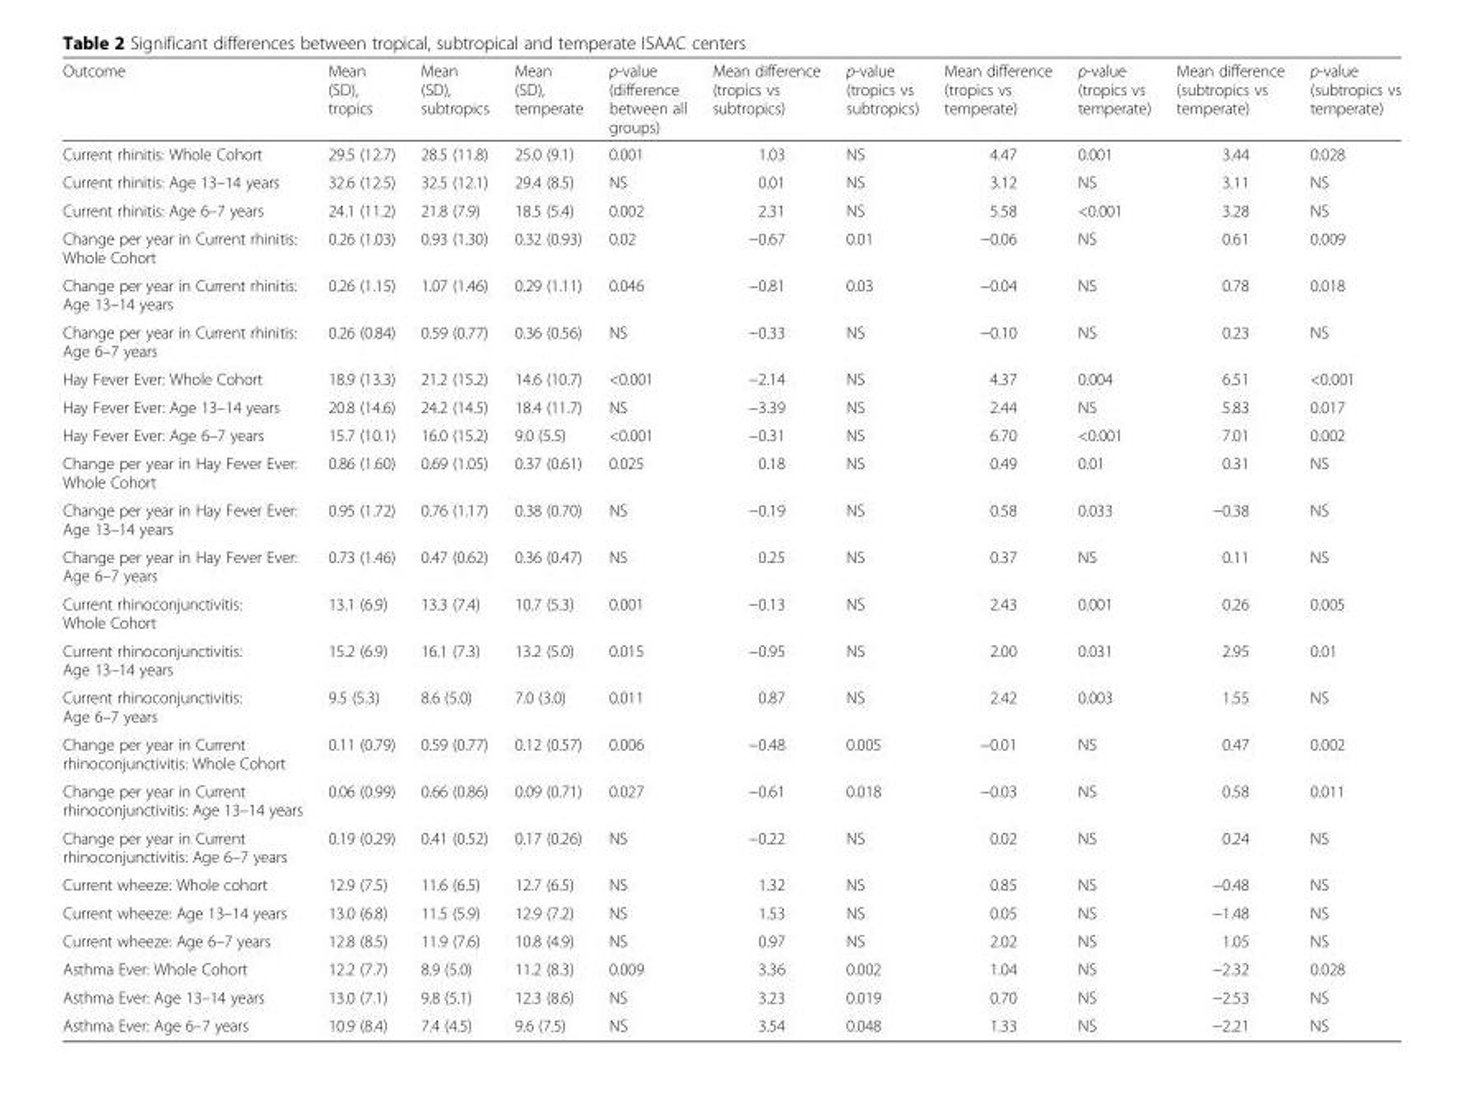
<table><thead><tr><td>Outcome</td><td>Mean (SD), tropics</td><td>Mean (SD), subtropics</td><td>Mean (SD), temperate</td><td>p-value (difference between all groups)</td><td>Mean difference (tropics vs subtropics)</td><td>p-value (tropics vs subtropics)</td><td>Mean difference (tropics vs temperate)</td><td>p-value (tropics vs temperate)</td><td>Mean difference (subtropics vs temperate)</td><td>p-value (subtropics vs temperate)</td></tr></thead><tbody><tr><td>Current rhinitis: Whole Cohort</td><td>29.5 (12.7)</td><td>28.5 (11.8)</td><td>25.0 (9.1)</td><td>0.001</td><td>1.03</td><td>NS</td><td>4.47</td><td>0.001</td><td>3.44</td><td>0.028</td></tr><tr><td>Current rhinitis: Age 13–14 years</td><td>32.6 (12.5)</td><td>32.5 (12.1)</td><td>29.4 (8.5)</td><td>NS</td><td>0.01</td><td>NS</td><td>3.12</td><td>NS</td><td>3.11</td><td>NS</td></tr><tr><td>Current rhinitis: Age 6–7 years</td><td>24.1 (11.2)</td><td>21.8 (7.9)</td><td>18.5 (5.4)</td><td>0.002</td><td>2.31</td><td>NS</td><td>5.58</td><td>&lt;0.001</td><td>3.28</td><td>NS</td></tr><tr><td>Change per year in Current rhinitis: Whole Cohort</td><td>0.26 (1.03)</td><td>0.93 (1.30)</td><td>0.32 (0.93)</td><td>0.02</td><td>−0.67</td><td>0.01</td><td>−0.06</td><td>NS</td><td>0.61</td><td>0.009</td></tr><tr><td>Change per year in Current rhinitis: Age 13–14 years</td><td>0.26 (1.15)</td><td>1.07 (1.46)</td><td>0.29 (1.11)</td><td>0.046</td><td>−0.81</td><td>0.03</td><td>−0.04</td><td>NS</td><td>0.78</td><td>0.018</td></tr><tr><td>Change per year in Current rhinitis: Age 6–7 years</td><td>0.26 (0.84)</td><td>0.59 (0.77)</td><td>0.36 (0.56)</td><td>NS</td><td>−0.33</td><td>NS</td><td>−0.10</td><td>NS</td><td>0.23</td><td>NS</td></tr><tr><td>Hay Fever Ever: Whole Cohort</td><td>18.9 (13.3)</td><td>21.2 (15.2)</td><td>14.6 (10.7)</td><td>&lt;0.001</td><td>−2.14</td><td>NS</td><td>4.37</td><td>0.004</td><td>6.51</td><td>&lt;0.001</td></tr><tr><td>Hay Fever Ever: Age 13–14 years</td><td>20.8 (14.6)</td><td>24.2 (14.5)</td><td>18.4 (11.7)</td><td>NS</td><td>−3.39</td><td>NS</td><td>2.44</td><td>NS</td><td>5.83</td><td>0.017</td></tr><tr><td>Hay Fever Ever: Age 6–7 years</td><td>15.7 (10.1)</td><td>16.0 (15.2)</td><td>9.0 (5.5)</td><td>&lt;0.001</td><td>−0.31</td><td>NS</td><td>6.70</td><td>&lt;0.001</td><td>7.01</td><td>0.002</td></tr><tr><td>Change per year in Hay Fever Ever: Whole Cohort</td><td>0.86 (1.60)</td><td>0.69 (1.05)</td><td>0.37 (0.61)</td><td>0.025</td><td>0.18</td><td>NS</td><td>0.49</td><td>0.01</td><td>0.31</td><td>NS</td></tr><tr><td>Change per year in Hay Fever Ever: Age 13–14 years</td><td>0.95 (1.72)</td><td>0.76 (1.17)</td><td>0.38 (0.70)</td><td>NS</td><td>−0.19</td><td>NS</td><td>0.58</td><td>0.033</td><td>−0.38</td><td>NS</td></tr><tr><td>Change per year in Hay Fever Ever: Age 6–7 years</td><td>0.73 (1.46)</td><td>0.47 (0.62)</td><td>0.36 (0.47)</td><td>NS</td><td>0.25</td><td>NS</td><td>0.37</td><td>NS</td><td>0.11</td><td>NS</td></tr><tr><td>Current rhinoconjunctivitis: Whole Cohort</td><td>13.1 (6.9)</td><td>13.3 (7.4)</td><td>10.7 (5.3)</td><td>0.001</td><td>−0.13</td><td>NS</td><td>2.43</td><td>0.001</td><td>0.26</td><td>0.005</td></tr><tr><td>Current rhinoconjunctivitis: Age 13–14 years</td><td>15.2 (6.9)</td><td>16.1 (7.3)</td><td>13.2 (5.0)</td><td>0.015</td><td>−0.95</td><td>NS</td><td>2.00</td><td>0.031</td><td>2.95</td><td>0.01</td></tr><tr><td>Current rhinoconjunctivitis: Age 6–7 years</td><td>9.5 (5.3)</td><td>8.6 (5.0)</td><td>7.0 (3.0)</td><td>0.011</td><td>0.87</td><td>NS</td><td>2.42</td><td>0.003</td><td>1.55</td><td>NS</td></tr><tr><td>Change per year in Current rhinoconjunctivitis: Whole Cohort</td><td>0.11 (0.79)</td><td>0.59 (0.77)</td><td>0.12 (0.57)</td><td>0.006</td><td>−0.48</td><td>0.005</td><td>−0.01</td><td>NS</td><td>0.47</td><td>0.002</td></tr><tr><td>Change per year in Current rhinoconjunctivitis: Age 13–14 years</td><td>0.06 (0.99)</td><td>0.66 (0.86)</td><td>0.09 (0.71)</td><td>0.027</td><td>−0.61</td><td>0.018</td><td>−0.03</td><td>NS</td><td>0.58</td><td>0.011</td></tr><tr><td>Change per year in Current rhinoconjunctivitis: Age 6–7 years</td><td>0.19 (0.29)</td><td>0.41 (0.52)</td><td>0.17 (0.26)</td><td>NS</td><td>−0.22</td><td>NS</td><td>0.02</td><td>NS</td><td>0.24</td><td>NS</td></tr><tr><td>Current wheeze: Whole cohort</td><td>12.9 (7.5)</td><td>11.6 (6.5)</td><td>12.7 (6.5)</td><td>NS</td><td>1.32</td><td>NS</td><td>0.85</td><td>NS</td><td>−0.48</td><td>NS</td></tr><tr><td>Current wheeze: Age 13–14 years</td><td>13.0 (6.8)</td><td>11.5 (5.9)</td><td>12.9 (7.2)</td><td>NS</td><td>1.53</td><td>NS</td><td>0.05</td><td>NS</td><td>−1.48</td><td>NS</td></tr><tr><td>Current wheeze: Age 6–7 years</td><td>12.8 (8.5)</td><td>11.9 (7.6)</td><td>10.8 (4.9)</td><td>NS</td><td>0.97</td><td>NS</td><td>2.02</td><td>NS</td><td>1.05</td><td>NS</td></tr><tr><td>Asthma Ever: Whole Cohort</td><td>12.2 (7.7)</td><td>8.9 (5.0)</td><td>11.2 (8.3)</td><td>0.009</td><td>3.36</td><td>0.002</td><td>1.04</td><td>NS</td><td>−2.32</td><td>0.028</td></tr><tr><td>Asthma Ever: Age 13–14 years</td><td>13.0 (7.1)</td><td>9.8 (5.1)</td><td>12.3 (8.6)</td><td>NS</td><td>3.23</td><td>0.019</td><td>0.70</td><td>NS</td><td>−2.53</td><td>NS</td></tr><tr><td>Asthma Ever: Age 6–7 years</td><td>10.9 (8.4)</td><td>7.4 (4.5)</td><td>9.6 (7.5)</td><td>NS</td><td>3.54</td><td>0.048</td><td>1.33</td><td>NS</td><td>−2.21</td><td>NS</td></tr></tbody></table>